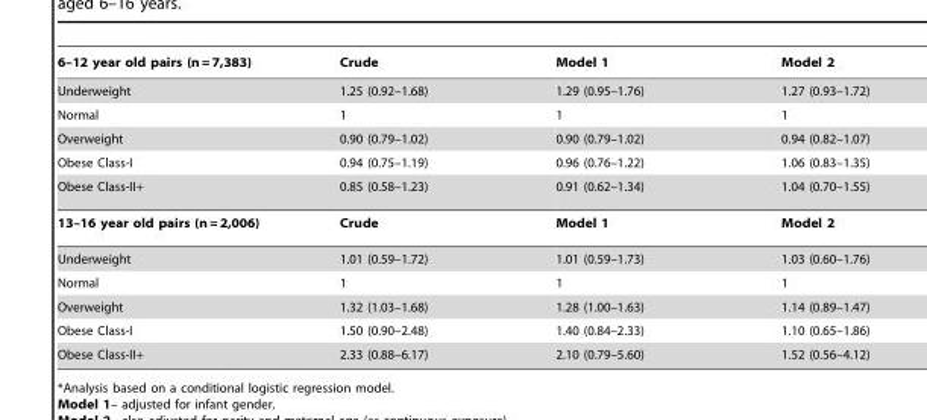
<table><thead><tr><td>6–12 year old pairs (n = 7,383)</td><td>Crude</td><td>Model 1</td><td>Model 2</td></tr></thead><tbody><tr><td>Underweight</td><td>1.25 (0.92–1.68)</td><td>1.29 (0.95–1.76)</td><td>1.27 (0.93–1.72)</td></tr><tr><td>Normal</td><td>1</td><td>1</td><td>1</td></tr><tr><td>Overweight</td><td>0.90 (0.79–1.02)</td><td>0.90 (0.79–1.02)</td><td>0.94 (0.82–1.07)</td></tr><tr><td>Obese Class-I</td><td>0.94 (0.75–1.19)</td><td>0.96 (0.76–1.22)</td><td>1.06 (0.83–1.35)</td></tr><tr><td>Obese Class-II+</td><td>0.85 (0.58–1.23)</td><td>0.91 (0.62–1.34)</td><td>1.04 (0.70–1.55)</td></tr><tr><td>13–16 year old pairs (n = 2,006)</td><td>Crude</td><td>Model 1</td><td>Model 2</td></tr><tr><td>Underweight</td><td>1.01 (0.59–1.72)</td><td>1.01 (0.59–1.73)</td><td>1.03 (0.60–1.76)</td></tr><tr><td>Normal</td><td>1</td><td>1</td><td>1</td></tr><tr><td>Overweight</td><td>1.32 (1.03–1.68)</td><td>1.28 (1.00–1.63)</td><td>1.14 (0.89–1.47)</td></tr><tr><td>Obese Class-I</td><td>1.50 (0.90–2.48)</td><td>1.40 (0.84–2.33)</td><td>1.10 (0.65–1.86)</td></tr><tr><td>Obese Class-II+</td><td>2.33 (0.88–6.17)</td><td>2.10 (0.79–5.60)</td><td>1.52 (0.56–4.12)</td></tr></tbody></table>